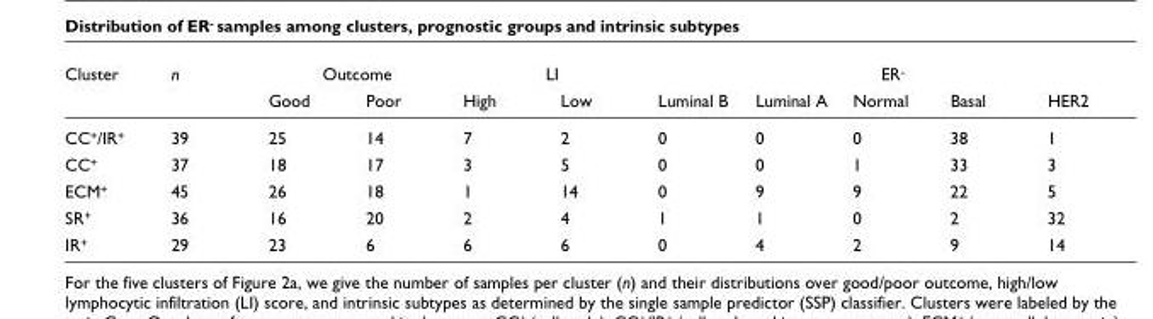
<table><thead><tr><td rowspan="2">Cluster</td><td rowspan="2">n</td><td colspan="2">Outcome</td><td colspan="2">LI</td><td colspan="5">ER<sup>-</sup></td></tr><tr><td>Good</td><td>Poor</td><td>High</td><td>Low</td><td>Luminal B</td><td>Luminal A</td><td>Normal</td><td>Basal</td><td>HER2</td></tr></thead><tbody><tr><td>CC<sup>+</sup>/IR<sup>+</sup></td><td>39</td><td>25</td><td>14</td><td>7</td><td>2</td><td>0</td><td>0</td><td>0</td><td>38</td><td>1</td></tr><tr><td>CC<sup>+</sup></td><td>37</td><td>18</td><td>17</td><td>3</td><td>5</td><td>0</td><td>0</td><td>1</td><td>33</td><td>3</td></tr><tr><td>ECM<sup>+</sup></td><td>45</td><td>26</td><td>18</td><td>1</td><td>14</td><td>0</td><td>9</td><td>9</td><td>22</td><td>5</td></tr><tr><td>SR<sup>+</sup></td><td>36</td><td>16</td><td>20</td><td>2</td><td>4</td><td>1</td><td>1</td><td>0</td><td>2</td><td>32</td></tr><tr><td>IR<sup>+</sup></td><td>29</td><td>23</td><td>6</td><td>6</td><td>6</td><td>0</td><td>4</td><td>2</td><td>9</td><td>14</td></tr></tbody></table>